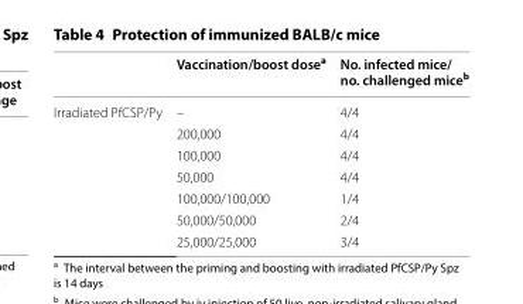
<table><thead><tr><td></td><td>Vaccination/boost dose<sup>a</sup></td><td>No. infected mice/ no. challenged mice<sup>b</sup></td></tr></thead><tbody><tr><td rowspan="7">Irradiated PfCSP/Py</td><td>–</td><td>4/4</td></tr><tr><td>200,000</td><td>4/4</td></tr><tr><td>100,000</td><td>4/4</td></tr><tr><td>50,000</td><td>4/4</td></tr><tr><td>100,000/100,000</td><td>1/4</td></tr><tr><td>50,000/50,000</td><td>2/4</td></tr><tr><td>25,000/25,000</td><td>3/4</td></tr></tbody></table>